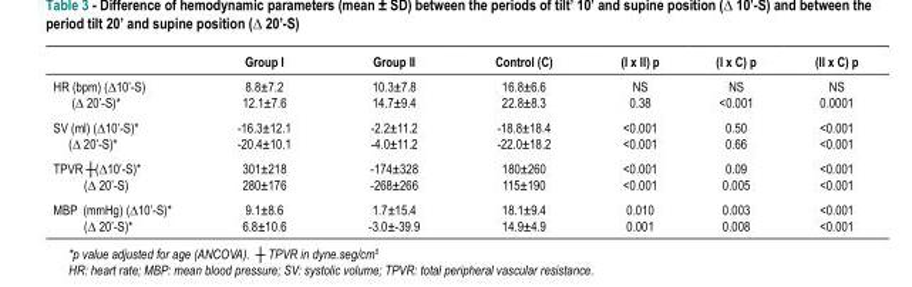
<table><thead><tr><td></td><td>Group I</td><td>Group II</td><td>Control (C)</td><td>(I x II) p</td><td>(I x C) p</td><td>(II x C) p</td></tr></thead><tbody><tr><td>HR (bpm) (∆10’-S) (∆ 20’-S)*</td><td>8.8±7.2 12.1±7.6</td><td>10.3±7.8 14.7±9.4</td><td>16.8±6.6 22.8±8.3</td><td>NS 0.38</td><td>NS &lt;0.001</td><td>NS 0.0001</td></tr><tr><td>SV (ml) (∆10’-S)* (∆ 20’-S)*</td><td>-16.3±12.1 -20.4±10.1</td><td>-2.2±11.2 -4.0±11.2</td><td>-18.8±18.4 -22.0±18.2</td><td>&lt;0.001 &lt;0.001</td><td>0.50 0.66</td><td>&lt;0.001 &lt;0.001</td></tr><tr><td>TPVR ┼(∆10’-S)* (∆ 20’-S)</td><td>301±218 280±176</td><td>-174±328 -268±266</td><td>180±260 115±190</td><td>&lt;0.001 &lt;0.001</td><td>0.09 0.005</td><td>&lt;0.001 &lt;0.001</td></tr><tr><td>MBP (mmHg) (∆10’-S)* (∆ 20’-S)*</td><td>9.1±8.6 6.8±10.6</td><td>1.7±15.4 -3.0±-39.9</td><td>18.1±9.4 14.9±4.9</td><td>0.010 0.001</td><td>0.003 0.008</td><td>&lt;0.001 &lt;0.001</td></tr></tbody></table>